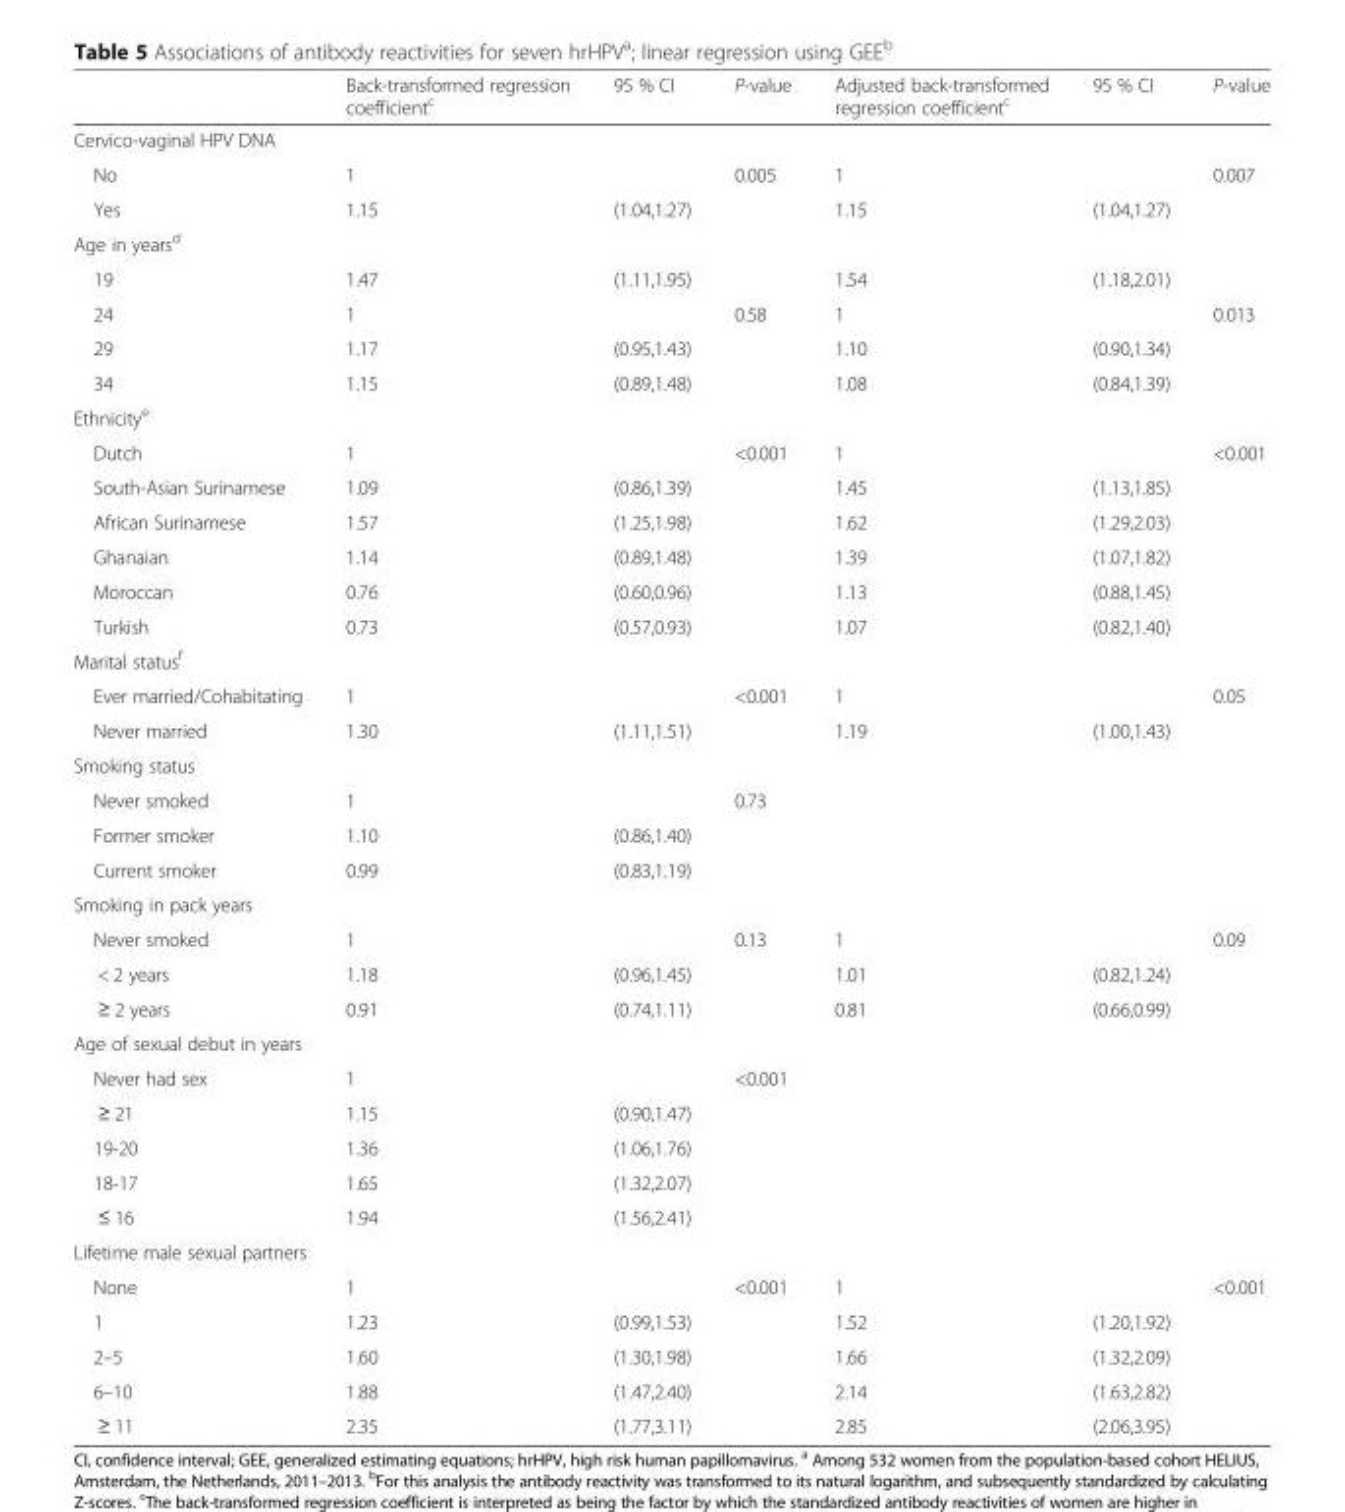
<table><thead><tr><td></td><td>Back-transformed regression coefficient<sup>c</sup></td><td>95 % CI</td><td>P-value</td><td>Adjusted back-transformed regression coefficient<sup>c</sup></td><td>95 % CI</td><td>P-value</td></tr></thead><tbody><tr><td colspan="7">Cervico-vaginal HPV DNA</td></tr><tr><td>No</td><td>1</td><td></td><td>0.005</td><td>1</td><td></td><td>0.007</td></tr><tr><td>Yes</td><td>1.15</td><td>(1.04,1.27)</td><td></td><td>1.15</td><td>(1.04,1.27)</td><td></td></tr><tr><td colspan="7">Age in years<sup>d</sup></td></tr><tr><td>19</td><td>1.47</td><td>(1.11,1.95)</td><td></td><td>1.54</td><td>(1.18,2.01)</td><td></td></tr><tr><td>24</td><td>1</td><td></td><td>0.58</td><td>1</td><td></td><td>0.013</td></tr><tr><td>29</td><td>1.17</td><td>(0.95,1.43)</td><td></td><td>1.10</td><td>(0.90,1.34)</td><td></td></tr><tr><td>34</td><td>1.15</td><td>(0.89,1.48)</td><td></td><td>1.08</td><td>(0.84,1.39)</td><td></td></tr><tr><td colspan="7">Ethnicity<sup>e</sup></td></tr><tr><td>Dutch</td><td>1</td><td></td><td>&lt;0.001</td><td>1</td><td></td><td>&lt;0.001</td></tr><tr><td>South-Asian Surinamese</td><td>1.09</td><td>(0.86,1.39)</td><td></td><td>1.45</td><td>(1.13,1.85)</td><td></td></tr><tr><td>African Surinamese</td><td>1.57</td><td>(1.25,1.98)</td><td></td><td>1.62</td><td>(1.29,2.03)</td><td></td></tr><tr><td>Ghanaian</td><td>1.14</td><td>(0.89,1.48)</td><td></td><td>1.39</td><td>(1.07,1.82)</td><td></td></tr><tr><td>Moroccan</td><td>0.76</td><td>(0.60,0.96)</td><td></td><td>1.13</td><td>(0.88,1.45)</td><td></td></tr><tr><td>Turkish</td><td>0.73</td><td>(0.57,0.93)</td><td></td><td>1.07</td><td>(0.82,1.40)</td><td></td></tr><tr><td colspan="7">Marital status<sup>f</sup></td></tr><tr><td>Ever married/Cohabitating</td><td>1</td><td></td><td>&lt;0.001</td><td>1</td><td></td><td>0.05</td></tr><tr><td>Never married</td><td>1.30</td><td>(1.11,1.51)</td><td></td><td>1.19</td><td>(1.00,1.43)</td><td></td></tr><tr><td colspan="7">Smoking status</td></tr><tr><td>Never smoked</td><td>1</td><td></td><td>0.73</td><td></td><td></td><td></td></tr><tr><td>Former smoker</td><td>1.10</td><td>(0.86,1.40)</td><td></td><td></td><td></td><td></td></tr><tr><td>Current smoker</td><td>0.99</td><td>(0.83,1.19)</td><td></td><td></td><td></td><td></td></tr><tr><td colspan="7">Smoking in pack years</td></tr><tr><td>Never smoked</td><td>1</td><td></td><td>0.13</td><td>1</td><td></td><td>0.09</td></tr><tr><td>&lt; 2 years</td><td>1.18</td><td>(0.96,1.45)</td><td></td><td>1.01</td><td>(0.82,1.24)</td><td></td></tr><tr><td>≥ 2 years</td><td>0.91</td><td>(0.74,1.11)</td><td></td><td>0.81</td><td>(0.66,0.99)</td><td></td></tr><tr><td colspan="7">Age of sexual debut in years</td></tr><tr><td>Never had sex</td><td>1</td><td></td><td>&lt;0.001</td><td></td><td></td><td></td></tr><tr><td>≥ 21</td><td>1.15</td><td>(0.90,1.47)</td><td></td><td></td><td></td><td></td></tr><tr><td>19-20</td><td>1.36</td><td>(1.06,1.76)</td><td></td><td></td><td></td><td></td></tr><tr><td>18-17</td><td>1.65</td><td>(1.32,2.07)</td><td></td><td></td><td></td><td></td></tr><tr><td>≤ 16</td><td>1.94</td><td>(1.56,2.41)</td><td></td><td></td><td></td><td></td></tr><tr><td colspan="7">Lifetime male sexual partners</td></tr><tr><td>None</td><td>1</td><td></td><td>&lt;0.001</td><td>1</td><td></td><td>&lt;0.001</td></tr><tr><td>1</td><td>1.23</td><td>(0.99,1.53)</td><td></td><td>1.52</td><td>(1.20,1.92)</td><td></td></tr><tr><td>2–5</td><td>1.60</td><td>(1.30,1.98)</td><td></td><td>1.66</td><td>(1.32,2.09)</td><td></td></tr><tr><td>6–10</td><td>1.88</td><td>(1.47,2.40)</td><td></td><td>2.14</td><td>(1.63,2.82)</td><td></td></tr><tr><td>≥ 11</td><td>2.35</td><td>(1.77,3.11)</td><td></td><td>2.85</td><td>(2.06,3.95)</td><td></td></tr></tbody></table>